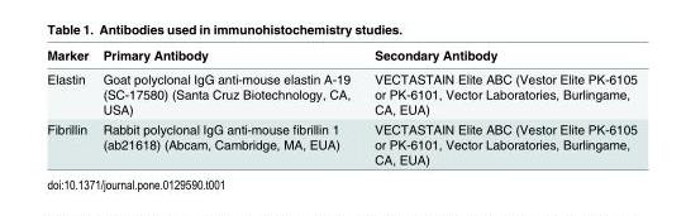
<table><thead><tr><td>Marker</td><td>Primary Antibody</td><td>Secondary Antibody</td></tr></thead><tbody><tr><td>Elastin</td><td>Goat polyclonal IgG anti-mouse elastin A-19 (SC-17580) (Santa Cruz Biotechnology, CA, USA)</td><td>VECTASTAIN Elite ABC (Vestor Elite PK-6105 or PK-6101, Vector Laboratories, Burlingame, CA, EUA)</td></tr><tr><td>Fibrillin</td><td>Rabbit polyclonal IgG anti-mouse fibrillin 1 (ab21618) (Abcam, Cambridge, MA, EUA)</td><td>VECTASTAIN Elite ABC (Vestor Elite PK-6105 or PK-6101, Vector Laboratories, Burlingame, CA, EUA)</td></tr></tbody></table>